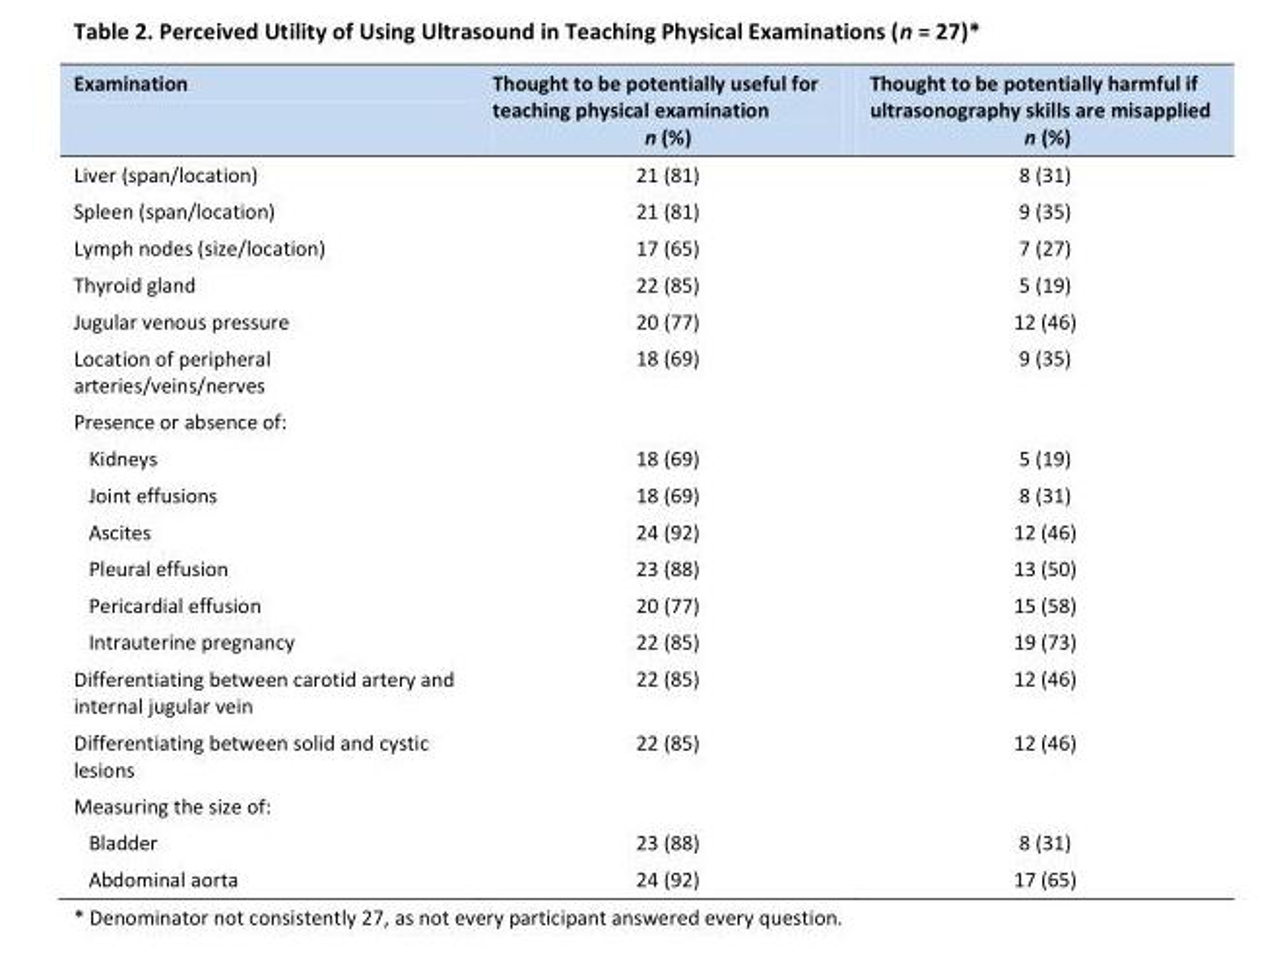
<table><thead><tr><td>Examination</td><td>Thought to be potentially useful for teaching physical examination n (%)</td><td>Thought to be potentially harmful if ultrasonography skills are misapplied n (%)</td></tr></thead><tbody><tr><td>Liver (span/location)</td><td>21 (81)</td><td>8 (31)</td></tr><tr><td>Spleen (span/location)</td><td>21 (81)</td><td>9 (35)</td></tr><tr><td>Lymph nodes (size/location)</td><td>17 (65)</td><td>7 (27)</td></tr><tr><td>Thyroid gland</td><td>22 (85)</td><td>5 (19)</td></tr><tr><td>Jugular venous pressure</td><td>20 (77)</td><td>12 (46)</td></tr><tr><td>Location of peripheral arteries/veins/nerves</td><td>18 (69)</td><td>9 (35)</td></tr><tr><td colspan="3">Presence or absence of:</td></tr><tr><td>Kidneys</td><td>18 (69)</td><td>5 (19)</td></tr><tr><td>Joint effusions</td><td>18 (69)</td><td>8 (31)</td></tr><tr><td>Ascites</td><td>24 (92)</td><td>12 (46)</td></tr><tr><td>Pleural effusion</td><td>23 (88)</td><td>13 (50)</td></tr><tr><td>Pericardial effusion</td><td>20 (77)</td><td>15 (58)</td></tr><tr><td>Intrauterine pregnancy</td><td>22 (85)</td><td>19 (73)</td></tr><tr><td>Differentiating between carotid artery and internal jugular vein</td><td>22 (85)</td><td>12 (46)</td></tr><tr><td>Differentiating between solid and cystic lesions</td><td>22 (85)</td><td>12 (46)</td></tr><tr><td colspan="3">Measuring the size of:</td></tr><tr><td>Bladder</td><td>23 (88)</td><td>8 (31)</td></tr><tr><td>Abdominal aorta</td><td>24 (92)</td><td>17 (65)</td></tr></tbody></table>